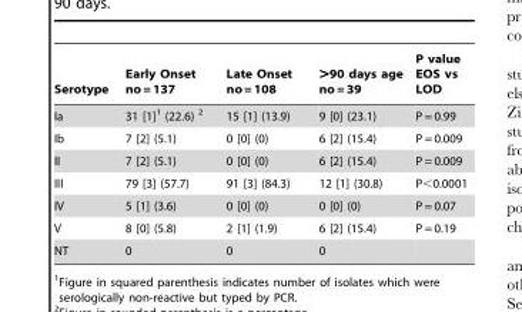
<table><thead><tr><td>Serotype</td><td>Early Onset no = 137</td><td>Late Onset no = 108</td><td>&gt;90 days age no = 39</td><td>P value EOS vs LOD</td></tr></thead><tbody><tr><td>Ia</td><td>31 [1]<sup>1</sup> (22.6) 2</td><td>15 [1] (13.9)</td><td>9 [0] (23.1)</td><td>P = 0.99</td></tr><tr><td>Ib</td><td>7 [2] (5.1)</td><td>0 [0] (0)</td><td>6 [2] (15.4)</td><td>P = 0.009</td></tr><tr><td>II</td><td>7 [2] (5.1)</td><td>0 [0] (0)</td><td>6 [2] (15.4)</td><td>P = 0.009</td></tr><tr><td>III</td><td>79 [3] (57.7)</td><td>91 [3] (84.3)</td><td>12 [1] (30.8)</td><td>P&lt;0.0001</td></tr><tr><td>IV</td><td>5 [1] (3.6)</td><td>0 [0] (0)</td><td>0 [0] (0)</td><td>P = 0.07</td></tr><tr><td>V</td><td>8 [0] (5.8)</td><td>2 [1] (1.9)</td><td>6 [2] (15.4)</td><td>P = 0.19</td></tr><tr><td>NT</td><td>0</td><td>0</td><td>0</td><td></td></tr></tbody></table>